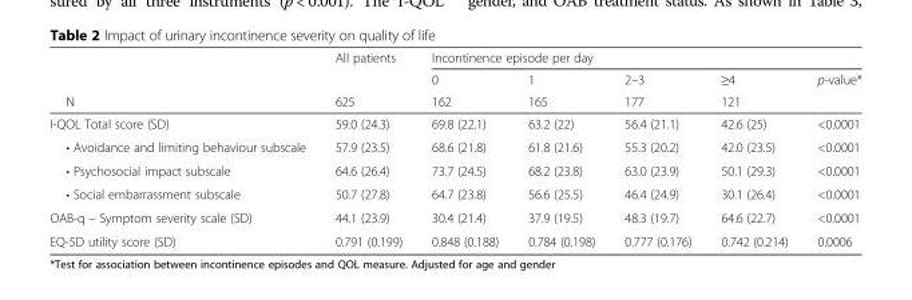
<table><thead><tr><td rowspan="3">N</td><td rowspan="3">All patients 625</td><td colspan="5">Incontinence episode per day</td></tr><tr><td rowspan="2">0 162</td><td rowspan="2">1 165</td><td rowspan="2">2–3 177</td><td rowspan="2">≥4 121</td><td rowspan="2">p-value*</td></tr><tr></tr></thead><tbody><tr><td>I-QOL Total score (SD)</td><td>59.0 (24.3)</td><td>69.8 (22.1)</td><td>63.2 (22)</td><td>56.4 (21.1)</td><td>42.6 (25)</td><td>&lt;0.0001</td></tr><tr><td>• Avoidance and limiting behaviour subscale</td><td>57.9 (23.5)</td><td>68.6 (21.8)</td><td>61.8 (21.6)</td><td>55.3 (20.2)</td><td>42.0 (23.5)</td><td>&lt;0.0001</td></tr><tr><td>• Psychosocial impact subscale</td><td>64.6 (26.4)</td><td>73.7 (24.5)</td><td>68.2 (23.8)</td><td>63.0 (23.9)</td><td>50.1 (29.3)</td><td>&lt;0.0001</td></tr><tr><td>• Social embarrassment subscale</td><td>50.7 (27.8)</td><td>64.7 (23.8)</td><td>56.6 (25.5)</td><td>46.4 (24.9)</td><td>30.1 (26.4)</td><td>&lt;0.0001</td></tr><tr><td>OAB-q – Symptom severity scale (SD)</td><td>44.1 (23.9)</td><td>30.4 (21.4)</td><td>37.9 (19.5)</td><td>48.3 (19.7)</td><td>64.6 (22.7)</td><td>&lt;0.0001</td></tr><tr><td>EQ-5D utility score (SD)</td><td>0.791 (0.199)</td><td>0.848 (0.188)</td><td>0.784 (0.198)</td><td>0.777 (0.176)</td><td>0.742 (0.214)</td><td>0.0006</td></tr></tbody></table>